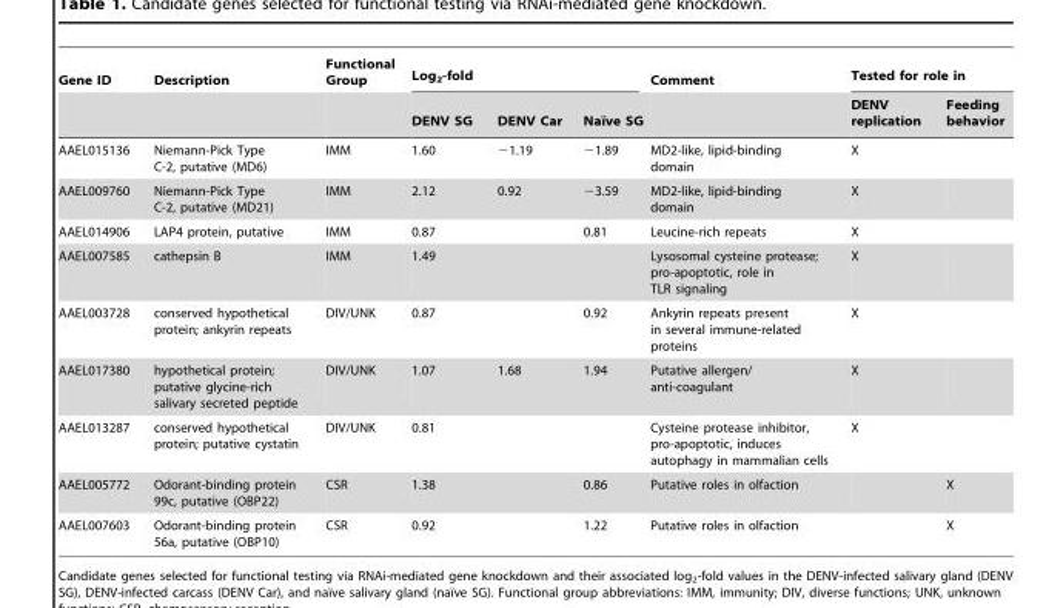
<table><thead><tr><td rowspan="2">Gene ID</td><td rowspan="2">Description</td><td rowspan="2">Functional Group</td><td colspan="3">Log<sub>2</sub>-fold</td><td rowspan="2">Comment</td><td colspan="2">Tested for role in</td></tr><tr><td>DENV SG</td><td>DENV Car</td><td>Naı¨ve SG</td><td>DENV replication</td><td>Feeding behavior</td></tr></thead><tbody><tr><td>AAEL015136</td><td>Niemann-Pick Type C-2, putative (MD6)</td><td>IMM</td><td>1.60</td><td>−1.19</td><td>−1.89</td><td>MD2-like, lipid-binding domain</td><td>X</td><td></td></tr><tr><td>AAEL009760</td><td>Niemann-Pick Type C-2, putative (MD21)</td><td>IMM</td><td>2.12</td><td>0.92</td><td>−3.59</td><td>MD2-like, lipid-binding domain</td><td>X</td><td></td></tr><tr><td>AAEL014906</td><td>LAP4 protein, putative</td><td>IMM</td><td>0.87</td><td></td><td>0.81</td><td>Leucine-rich repeats</td><td>X</td><td></td></tr><tr><td>AAEL007585</td><td>cathepsin B</td><td>IMM</td><td>1.49</td><td></td><td></td><td>Lysosomal cysteine protease; pro-apoptotic, role in TLR signaling</td><td>X</td><td></td></tr><tr><td>AAEL003728</td><td>conserved hypothetical protein; ankyrin repeats</td><td>DIV/UNK</td><td>0.87</td><td></td><td>0.92</td><td>Ankyrin repeats present in several immune-related proteins</td><td>X</td><td></td></tr><tr><td>AAEL017380</td><td>hypothetical protein; putative glycine-rich salivary secreted peptide</td><td>DIV/UNK</td><td>1.07</td><td>1.68</td><td>1.94</td><td>Putative allergen/ anti-coagulant</td><td>X</td><td></td></tr><tr><td>AAEL013287</td><td>conserved hypothetical protein; putative cystatin</td><td>DIV/UNK</td><td>0.81</td><td></td><td></td><td>Cysteine protease inhibitor, pro-apoptotic, induces autophagy in mammalian cells</td><td>X</td><td></td></tr><tr><td>AAEL005772</td><td>Odorant-binding protein 99c, putative (OBP22)</td><td>CSR</td><td>1.38</td><td></td><td>0.86</td><td>Putative roles in olfaction</td><td></td><td>X</td></tr><tr><td>AAEL007603</td><td>Odorant-binding protein 56a, putative (OBP10)</td><td>CSR</td><td>0.92</td><td></td><td>1.22</td><td>Putative roles in olfaction</td><td></td><td>X</td></tr></tbody></table>